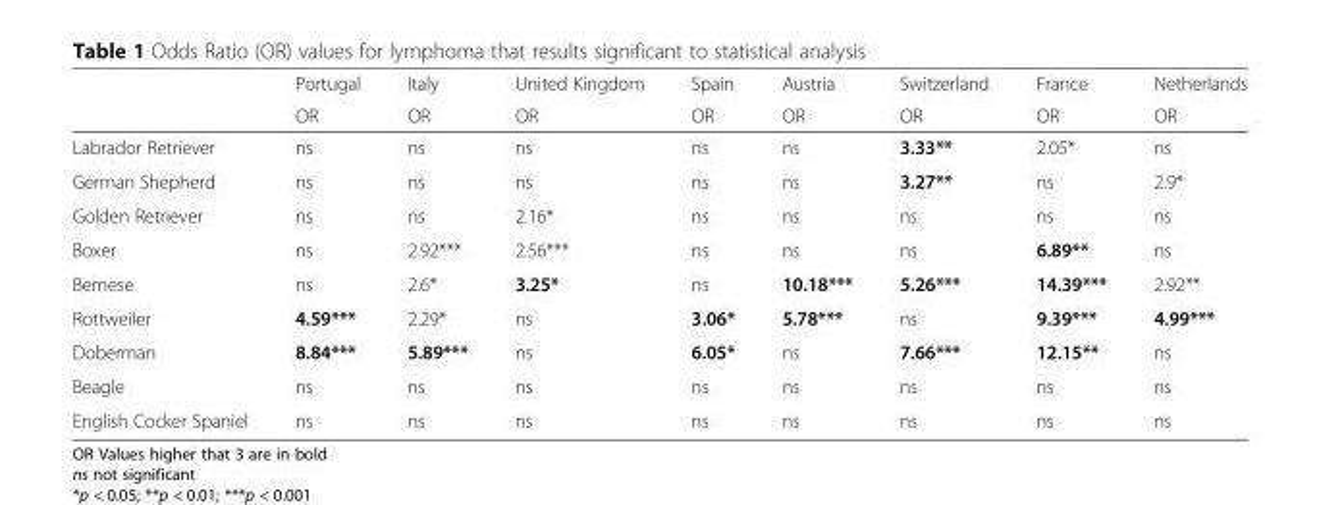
<table><thead><tr><td rowspan="2"></td><td rowspan="2">Portugal OR</td><td rowspan="2">Italy OR</td><td rowspan="2">United Kingdom OR</td><td rowspan="2">Spain OR</td><td rowspan="2">Austria OR</td><td rowspan="2">Switzerland OR</td><td rowspan="2">France OR</td><td rowspan="2">Netherlands OR</td></tr><tr></tr></thead><tbody><tr><td>Labrador Retriever</td><td>ns</td><td>ns</td><td>ns</td><td>ns</td><td>ns</td><td>3.33**</td><td>2.05*</td><td>ns</td></tr><tr><td>German Shepherd</td><td>ns</td><td>ns</td><td>ns</td><td>ns</td><td>ns</td><td>3.27**</td><td>ns</td><td>2.9*</td></tr><tr><td>Golden Retriever</td><td>ns</td><td>ns</td><td>2.16*</td><td>ns</td><td>ns</td><td>ns</td><td>ns</td><td>ns</td></tr><tr><td>Boxer</td><td>ns</td><td>2.92***</td><td>2.56***</td><td>ns</td><td>ns</td><td>ns</td><td>6.89**</td><td>ns</td></tr><tr><td>Bernese</td><td>ns</td><td>2.6*</td><td>3.25*</td><td>ns</td><td>10.18***</td><td>5.26***</td><td>14.39***</td><td>2.92**</td></tr><tr><td>Rottweiler</td><td>4.59***</td><td>2.29*</td><td>ns</td><td>3.06*</td><td>5.78***</td><td>ns</td><td>9.39***</td><td>4.99***</td></tr><tr><td>Doberman</td><td>8.84***</td><td>5.89***</td><td>ns</td><td>6.05*</td><td>ns</td><td>7.66***</td><td>12.15**</td><td>ns</td></tr><tr><td>Beagle</td><td>ns</td><td>ns</td><td>ns</td><td>ns</td><td>ns</td><td>ns</td><td>ns</td><td>ns</td></tr><tr><td>English Cocker Spaniel</td><td>ns</td><td>ns</td><td>ns</td><td>ns</td><td>ns</td><td>ns</td><td>ns</td><td>ns</td></tr></tbody></table>